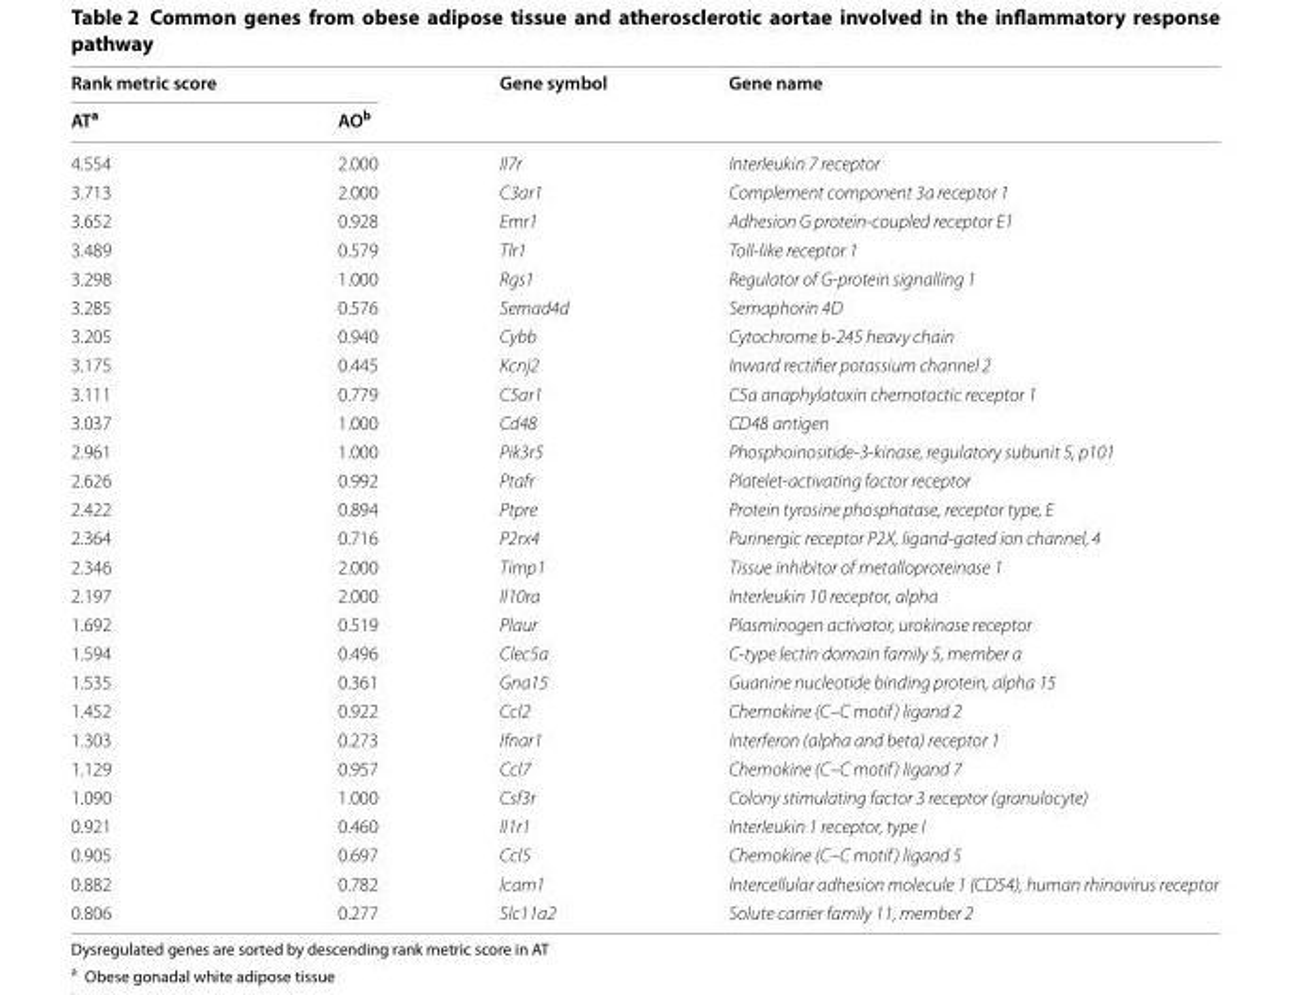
<table><thead><tr><td colspan="2">Rank metric score</td><td rowspan="2">Gene symbol</td><td rowspan="2">Gene name</td></tr><tr><td>AT<sup>a</sup></td><td>AO<sup>b</sup></td></tr></thead><tbody><tr><td>4.554</td><td>2.000</td><td>Il7r</td><td>Interleukin 7 receptor</td></tr><tr><td>3.713</td><td>2.000</td><td>C3ar1</td><td>Complement component 3a receptor 1</td></tr><tr><td>3.652</td><td>0.928</td><td>Emr1</td><td>Adhesion G protein‑coupled receptor E1</td></tr><tr><td>3.489</td><td>0.579</td><td>Tlr1</td><td>Toll‑like receptor 1</td></tr><tr><td>3.298</td><td>1.000</td><td>Rgs1</td><td>Regulator of G‑protein signalling 1</td></tr><tr><td>3.285</td><td>0.576</td><td>Semad4d</td><td>Semaphorin 4D</td></tr><tr><td>3.205</td><td>0.940</td><td>Cybb</td><td>Cytochrome b‑245 heavy chain</td></tr><tr><td>3.175</td><td>0.445</td><td>Kcnj2</td><td>Inward rectifier potassium channel 2</td></tr><tr><td>3.111</td><td>0.779</td><td>C5ar1</td><td>C5a anaphylatoxin chemotactic receptor 1</td></tr><tr><td>3.037</td><td>1.000</td><td>Cd48</td><td>CD48 antigen</td></tr><tr><td>2.961</td><td>1.000</td><td>Pik3r5</td><td>Phosphoinositide‑3‑kinase, regulatory subunit 5, p101</td></tr><tr><td>2.626</td><td>0.992</td><td>Ptafr</td><td>Platelet‑activating factor receptor</td></tr><tr><td>2.422</td><td>0.894</td><td>Ptpre</td><td>Protein tyrosine phosphatase, receptor type, E</td></tr><tr><td>2.364</td><td>0.716</td><td>P2rx4</td><td>Purinergic receptor P2X, ligand‑gated ion channel, 4</td></tr><tr><td>2.346</td><td>2.000</td><td>Timp1</td><td>Tissue inhibitor of metalloproteinase 1</td></tr><tr><td>2.197</td><td>2.000</td><td>Il10ra</td><td>Interleukin 10 receptor, alpha</td></tr><tr><td>1.692</td><td>0.519</td><td>Plaur</td><td>Plasminogen activator, urokinase receptor</td></tr><tr><td>1.594</td><td>0.496</td><td>Clec5a</td><td>C‑type lectin domain family 5, member a</td></tr><tr><td>1.535</td><td>0.361</td><td>Gna15</td><td>Guanine nucleotide binding protein, alpha 15</td></tr><tr><td>1.452</td><td>0.922</td><td>Ccl2</td><td>Chemokine (C–C motif) ligand 2</td></tr><tr><td>1.303</td><td>0.273</td><td>Ifnar1</td><td>Interferon (alpha and beta) receptor 1</td></tr><tr><td>1.129</td><td>0.957</td><td>Ccl7</td><td>Chemokine (C–C motif) ligand 7</td></tr><tr><td>1.090</td><td>1.000</td><td>Csf3r</td><td>Colony stimulating factor 3 receptor (granulocyte)</td></tr><tr><td>0.921</td><td>0.460</td><td>Il1r1</td><td>Interleukin 1 receptor, type I</td></tr><tr><td>0.905</td><td>0.697</td><td>Ccl5</td><td>Chemokine (C–C motif) ligand 5</td></tr><tr><td>0.882</td><td>0.782</td><td>Icam1</td><td>Intercellular adhesion molecule 1 (CD54), human rhinovirus receptor</td></tr><tr><td>0.806</td><td>0.277</td><td>Slc11a2</td><td>Solute carrier family 11, member 2</td></tr></tbody></table>